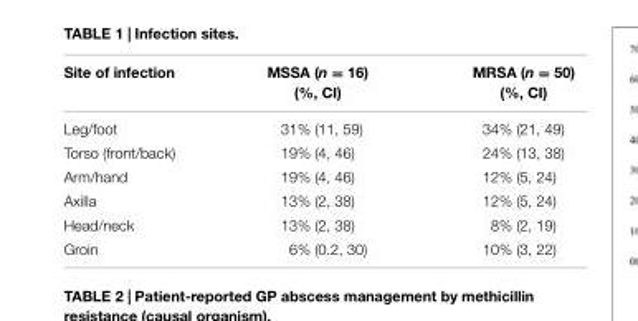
<table><thead><tr><td>Site of infection</td><td>MSSA (n = 16) (%, CI)</td><td>MRSA (n = 50) (%, CI)</td></tr></thead><tbody><tr><td>Leg/foot</td><td>31% (11, 59)</td><td>34% (21, 49)</td></tr><tr><td>Torso (front/back)</td><td>19% (4, 46)</td><td>24% (13, 38)</td></tr><tr><td>Arm/hand</td><td>19% (4, 46)</td><td>12% (5, 24)</td></tr><tr><td>Axilla</td><td>13% (2, 38)</td><td>12% (5, 24)</td></tr><tr><td>Head/neck</td><td>13% (2, 38)</td><td>8% (2, 19)</td></tr><tr><td>Groin</td><td>6% (0.2, 30)</td><td>10% (3, 22)</td></tr></tbody></table>